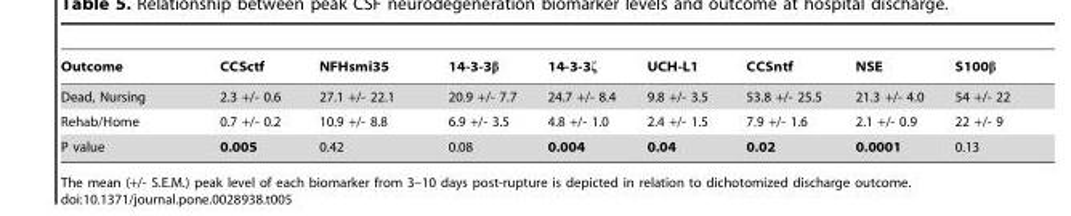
<table><thead><tr><td>Outcome</td><td>CCSctf</td><td>NFHsmi35</td><td>14-3-3β</td><td>14-3-3ζ</td><td>UCH-L1</td><td>CCSntf</td><td>NSE</td><td>S100β</td></tr></thead><tbody><tr><td>Dead, Nursing</td><td>2.3 +/- 0.6</td><td>27.1 +/- 22.1</td><td>20.9 +/- 7.7</td><td>24.7 +/- 8.4</td><td>9.8 +/- 3.5</td><td>53.8 +/- 25.5</td><td>21.3 +/- 4.0</td><td>54 +/- 22</td></tr><tr><td>Rehab/Home</td><td>0.7 +/- 0.2</td><td>10.9 +/- 8.8</td><td>6.9 +/- 3.5</td><td>4.8 +/- 1.0</td><td>2.4 +/- 1.5</td><td>7.9 +/- 1.6</td><td>2.1 +/- 0.9</td><td>22 +/- 9</td></tr><tr><td>P value</td><td>0.005</td><td>0.42</td><td>0.08</td><td>0.004</td><td>0.04</td><td>0.02</td><td>0.0001</td><td>0.13</td></tr></tbody></table>